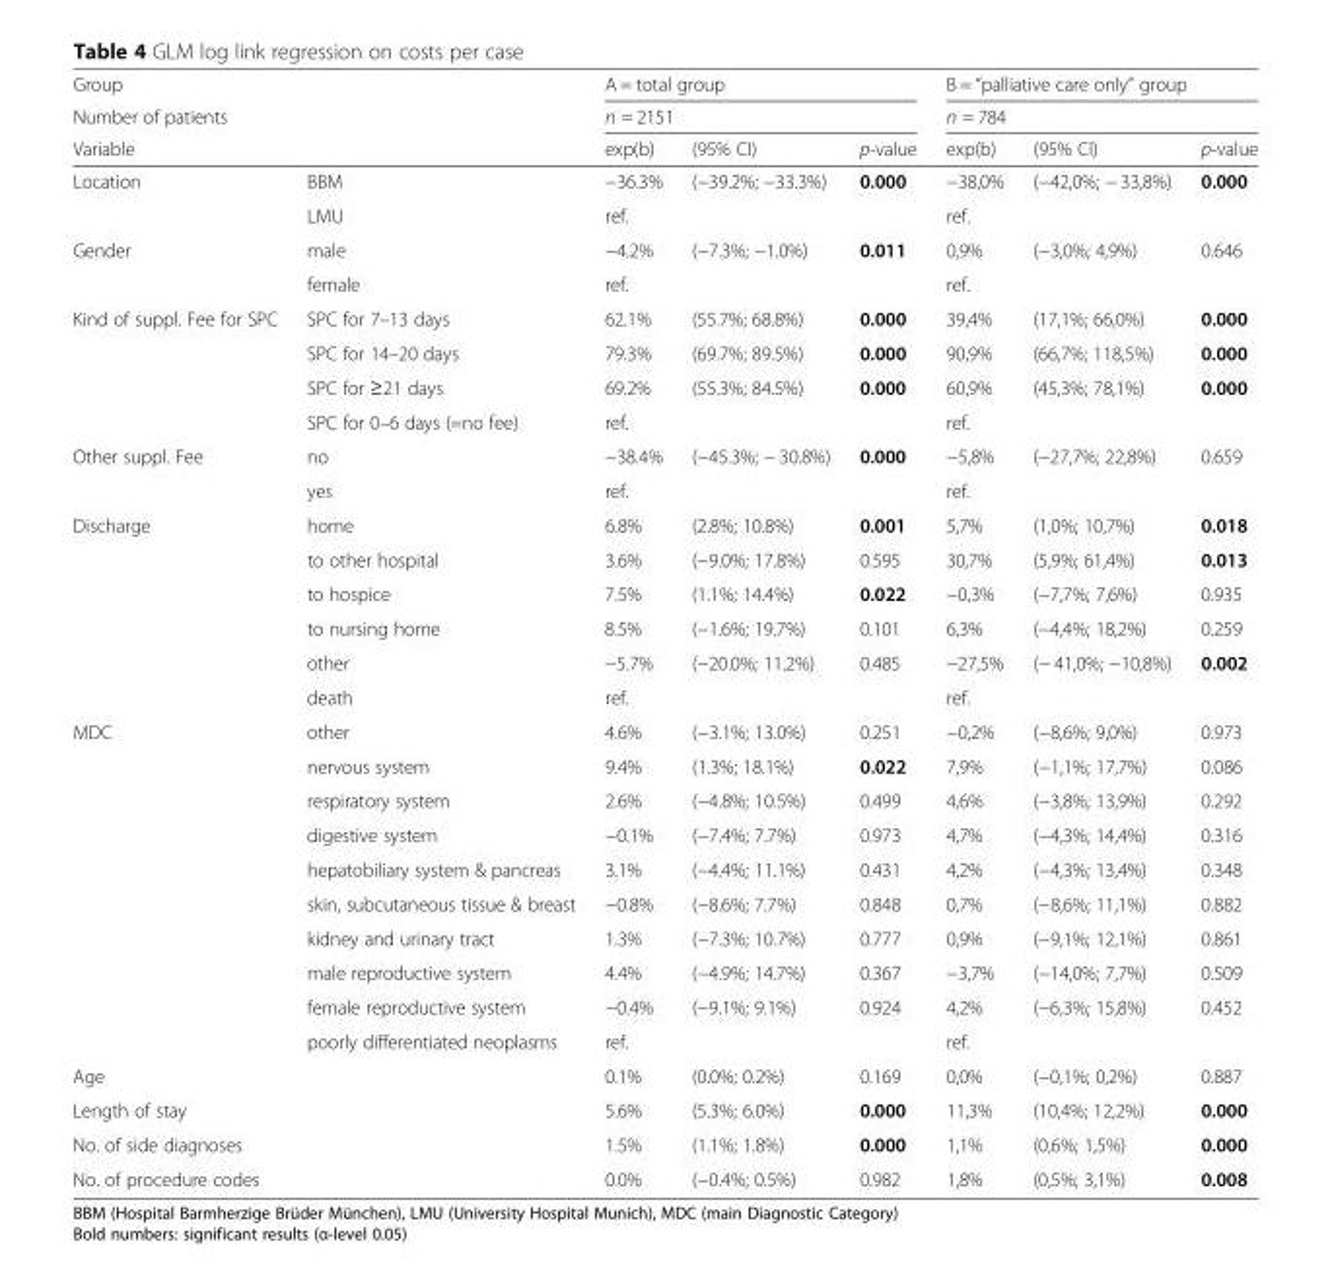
<table><thead><tr><td rowspan="3">Group Number of patients Variable</td><td rowspan="3"></td><td rowspan="2" colspan="3">A = total group n = 2151</td><td rowspan="2" colspan="3">B = “palliative care only” group n = 784</td></tr><tr></tr><tr><td>exp(b)</td><td>(95% CI)</td><td>p-value</td><td>exp(b)</td><td>(95% CI)</td><td>p-value</td></tr></thead><tbody><tr><td rowspan="2">Location</td><td>BBM</td><td>−36.3%</td><td>(−39.2%; −33.3%)</td><td>0.000</td><td>−38,0%</td><td>(−42,0%; − 33,8%)</td><td>0.000</td></tr><tr><td>LMU</td><td colspan="3">ref.</td><td colspan="3">ref.</td></tr><tr><td rowspan="2">Gender</td><td>male</td><td>−4.2%</td><td>(−7.3%; −1.0%)</td><td>0.011</td><td>0,9%</td><td>(−3,0%; 4,9%)</td><td>0.646</td></tr><tr><td>female</td><td colspan="3">ref.</td><td colspan="3">ref.</td></tr><tr><td rowspan="4">Kind of suppl. Fee for SPC</td><td>SPC for 7–13 days</td><td>62.1%</td><td>(55.7%; 68.8%)</td><td>0.000</td><td>39,4%</td><td>(17,1%; 66,0%)</td><td>0.000</td></tr><tr><td>SPC for 14–20 days</td><td>79.3%</td><td>(69.7%; 89.5%)</td><td>0.000</td><td>90,9%</td><td>(66,7%; 118,5%)</td><td>0.000</td></tr><tr><td>SPC for ≥21 days</td><td>69.2%</td><td>(55.3%; 84.5%)</td><td>0.000</td><td>60,9%</td><td>(45,3%; 78,1%)</td><td>0.000</td></tr><tr><td>SPC for 0–6 days (=no fee)</td><td colspan="3">ref.</td><td colspan="3">ref.</td></tr><tr><td rowspan="2">Other suppl. Fee</td><td>no</td><td>−38.4%</td><td>(−45.3%; − 30.8%)</td><td>0.000</td><td>−5,8%</td><td>(−27,7%; 22,8%)</td><td>0.659</td></tr><tr><td>yes</td><td colspan="3">ref.</td><td colspan="3">ref.</td></tr><tr><td rowspan="6">Discharge</td><td>home</td><td>6.8%</td><td>(2.8%; 10.8%)</td><td>0.001</td><td>5,7%</td><td>(1,0%; 10,7%)</td><td>0.018</td></tr><tr><td>to other hospital</td><td>3.6%</td><td>(−9.0%; 17.8%)</td><td>0.595</td><td>30,7%</td><td>(5,9%; 61,4%)</td><td>0.013</td></tr><tr><td>to hospice</td><td>7.5%</td><td>(1.1%; 14.4%)</td><td>0.022</td><td>−0,3%</td><td>(−7,7%; 7,6%)</td><td>0.935</td></tr><tr><td>to nursing home</td><td>8.5%</td><td>(−1.6%; 19.7%)</td><td>0.101</td><td>6,3%</td><td>(−4,4%; 18,2%)</td><td>0.259</td></tr><tr><td>other</td><td>−5.7%</td><td>(−20.0%; 11.2%)</td><td>0.485</td><td>−27,5%</td><td>(− 41,0%; −10,8%)</td><td>0.002</td></tr><tr><td>death</td><td colspan="3">ref.</td><td colspan="3">ref.</td></tr><tr><td rowspan="10">MDC</td><td>other</td><td>4.6%</td><td>(−3.1%; 13.0%)</td><td>0.251</td><td>−0,2%</td><td>(−8,6%; 9,0%)</td><td>0.973</td></tr><tr><td>nervous system</td><td>9.4%</td><td>(1.3%; 18.1%)</td><td>0.022</td><td>7,9%</td><td>(−1,1%; 17,7%)</td><td>0.086</td></tr><tr><td>respiratory system</td><td>2.6%</td><td>(−4.8%; 10.5%)</td><td>0.499</td><td>4,6%</td><td>(−3,8%; 13,9%)</td><td>0.292</td></tr><tr><td>digestive system</td><td>−0.1%</td><td>(−7.4%; 7.7%)</td><td>0.973</td><td>4,7%</td><td>(−4,3%; 14,4%)</td><td>0.316</td></tr><tr><td>hepatobiliary system &amp; pancreas</td><td>3.1%</td><td>(−4.4%; 11.1%)</td><td>0.431</td><td>4,2%</td><td>(−4,3%; 13,4%)</td><td>0.348</td></tr><tr><td>skin, subcutaneous tissue &amp; breast</td><td>−0.8%</td><td>(−8.6%; 7.7%)</td><td>0.848</td><td>0,7%</td><td>(−8,6%; 11,1%)</td><td>0.882</td></tr><tr><td>kidney and urinary tract</td><td>1.3%</td><td>(−7.3%; 10.7%)</td><td>0.777</td><td>0,9%</td><td>(−9,1%; 12,1%)</td><td>0.861</td></tr><tr><td>male reproductive system</td><td>4.4%</td><td>(−4.9%; 14.7%)</td><td>0.367</td><td>−3,7%</td><td>(−14,0%; 7,7%)</td><td>0.509</td></tr><tr><td>female reproductive system</td><td>−0.4%</td><td>(−9.1%; 9.1%)</td><td>0.924</td><td>4,2%</td><td>(−6,3%; 15,8%)</td><td>0.452</td></tr><tr><td>poorly differentiated neoplasms</td><td colspan="3">ref.</td><td colspan="3">ref.</td></tr><tr><td>Age</td><td></td><td>0.1%</td><td>(0.0%; 0.2%)</td><td>0.169</td><td>0,0%</td><td>(−0,1%; 0,2%)</td><td>0.887</td></tr><tr><td>Length of stay</td><td></td><td>5.6%</td><td>(5.3%; 6.0%)</td><td>0.000</td><td>11,3%</td><td>(10,4%; 12,2%)</td><td>0.000</td></tr><tr><td>No. of side diagnoses</td><td></td><td>1.5%</td><td>(1.1%; 1.8%)</td><td>0.000</td><td>1,1%</td><td>(0,6%; 1,5%)</td><td>0.000</td></tr><tr><td>No. of procedure codes</td><td></td><td>0.0%</td><td>(−0.4%; 0.5%)</td><td>0.982</td><td>1,8%</td><td>(0,5%; 3,1%)</td><td>0.008</td></tr></tbody></table>